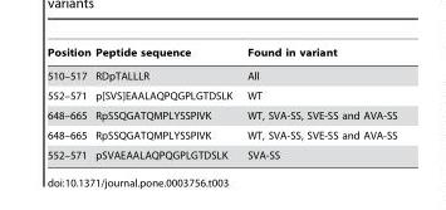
<table><thead><tr><td>Position</td><td>Peptide sequence</td><td>Found in variant</td></tr></thead><tbody><tr><td>510–517</td><td>RDpTALLLR</td><td>All</td></tr><tr><td>552–571</td><td>p[SVS]EAALAQPQGPLGTDSLK</td><td>WT</td></tr><tr><td>648–665</td><td>RpSSQGATQMPLYSSPIVK</td><td>WT, SVA-SS, SVE-SS and AVA-SS</td></tr><tr><td>648–665</td><td>RpSSQGATQMPLYSSPIVK</td><td>WT, SVA-SS, SVE-SS and AVA-SS</td></tr><tr><td>552–571</td><td>pSVAEAALAQPQGPLGTDSLK</td><td>SVA-SS</td></tr></tbody></table>